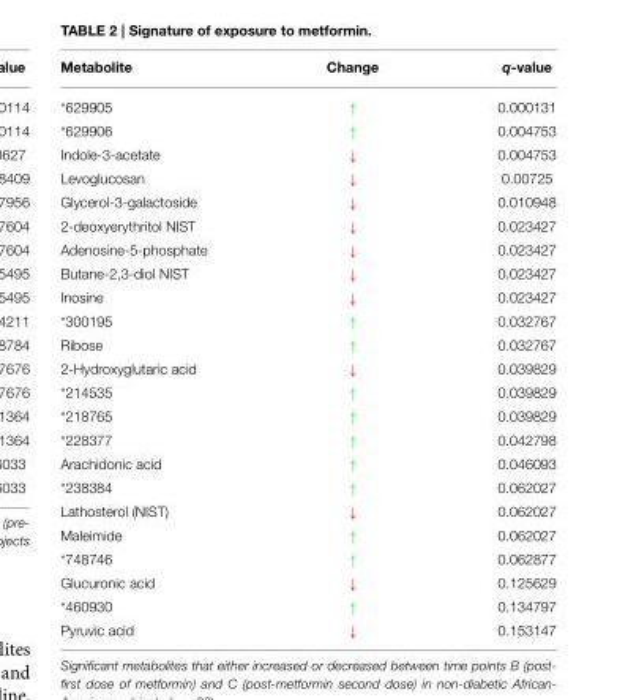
<table><thead><tr><td>Metabolite</td><td>Change</td><td>q-value</td></tr></thead><tbody><tr><td>*629905</td><td>↑</td><td>0.000131</td></tr><tr><td>*629906</td><td>↑</td><td>0.004753</td></tr><tr><td>Indole-3-acetate</td><td>↓</td><td>0.004753</td></tr><tr><td>Levoglucosan</td><td>↓</td><td>0.00725</td></tr><tr><td>Glycerol-3-galactoside</td><td>↓</td><td>0.010948</td></tr><tr><td>2-deoxyerythritol NIST</td><td>↓</td><td>0.023427</td></tr><tr><td>Adenosine-5-phosphate</td><td>↓</td><td>0.023427</td></tr><tr><td>Butane-2,3-diol NIST</td><td>↓</td><td>0.023427</td></tr><tr><td>Inosine</td><td>↓</td><td>0.023427</td></tr><tr><td>*300195</td><td>↑</td><td>0.032767</td></tr><tr><td>Ribose</td><td>↑</td><td>0.032767</td></tr><tr><td>2-Hydroxyglutaric acid</td><td>↓</td><td>0.039829</td></tr><tr><td>*214535</td><td>↑</td><td>0.039829</td></tr><tr><td>*218765</td><td>↑</td><td>0.039829</td></tr><tr><td>*228377</td><td>↑</td><td>0.042798</td></tr><tr><td>Arachidonic acid</td><td>↑</td><td>0.046093</td></tr><tr><td>*238384</td><td>↑</td><td>0.062027</td></tr><tr><td>Lathosterol (NIST)</td><td>↓</td><td>0.062027</td></tr><tr><td>Maleimide</td><td>↑</td><td>0.062027</td></tr><tr><td>*748746</td><td>↑</td><td>0.062877</td></tr><tr><td>Glucuronic acid</td><td>↓</td><td>0.125629</td></tr><tr><td>*460930</td><td>↑</td><td>0.134797</td></tr><tr><td>Pyruvic acid</td><td>↓</td><td>0.153147</td></tr></tbody></table>